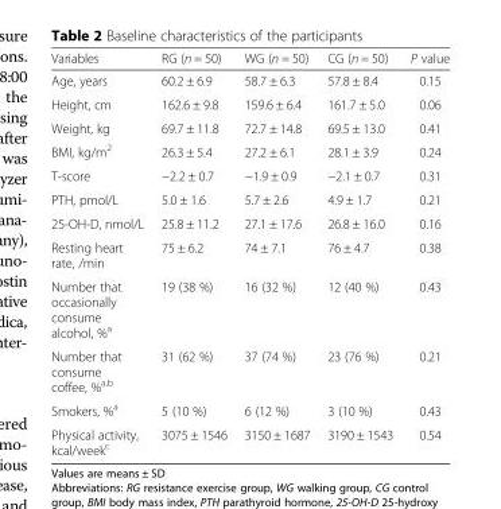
<table><thead><tr><td>Variables</td><td>RG (n = 50)</td><td>WG (n = 50)</td><td>CG (n = 50)</td><td>P value</td></tr></thead><tbody><tr><td>Age, years</td><td>60.2 ± 6.9</td><td>58.7 ± 6.3</td><td>57.8 ± 8.4</td><td>0.15</td></tr><tr><td>Height, cm</td><td>162.6 ± 9.8</td><td>159.6 ± 6.4</td><td>161.7 ± 5.0</td><td>0.06</td></tr><tr><td>Weight, kg</td><td>69.7 ± 11.8</td><td>72.7 ± 14.8</td><td>69.5 ± 13.0</td><td>0.41</td></tr><tr><td>BMI, kg/m<sup>2</sup></td><td>26.3 ± 5.4</td><td>27.2 ± 6.1</td><td>28.1 ± 3.9</td><td>0.24</td></tr><tr><td>T-score</td><td>−2.2 ± 0.7</td><td>−1.9 ± 0.9</td><td>−2.1 ± 0.7</td><td>0.31</td></tr><tr><td>PTH, pmol/L</td><td>5.0 ± 1.6</td><td>5.7 ± 2.6</td><td>4.9 ± 1.7</td><td>0.21</td></tr><tr><td>25-OH-D, nmol/L</td><td>25.8 ± 11.2</td><td>27.1 ± 17.6</td><td>26.8 ± 16.0</td><td>0.16</td></tr><tr><td>Resting heart rate, /min</td><td>75 ± 6.2</td><td>74 ± 7.1</td><td>76 ± 4.7</td><td>0.38</td></tr><tr><td>Number that occasionally consume alcohol, %<sup>a</sup></td><td>19 (38 %)</td><td>16 (32 %)</td><td>12 (40 %)</td><td>0.43</td></tr><tr><td>Number that consume coffee, %<sup>a,b</sup></td><td>31 (62 %)</td><td>37 (74 %)</td><td>23 (76 %)</td><td>0.21</td></tr><tr><td>Smokers, %<sup>a</sup></td><td>5 (10 %)</td><td>6 (12 %)</td><td>3 (10 %)</td><td>0.43</td></tr><tr><td>Physical activity, kcal/week<sup>c</sup></td><td>3075 ± 1546</td><td>3150 ± 1687</td><td>3190 ± 1543</td><td>0.54</td></tr></tbody></table>